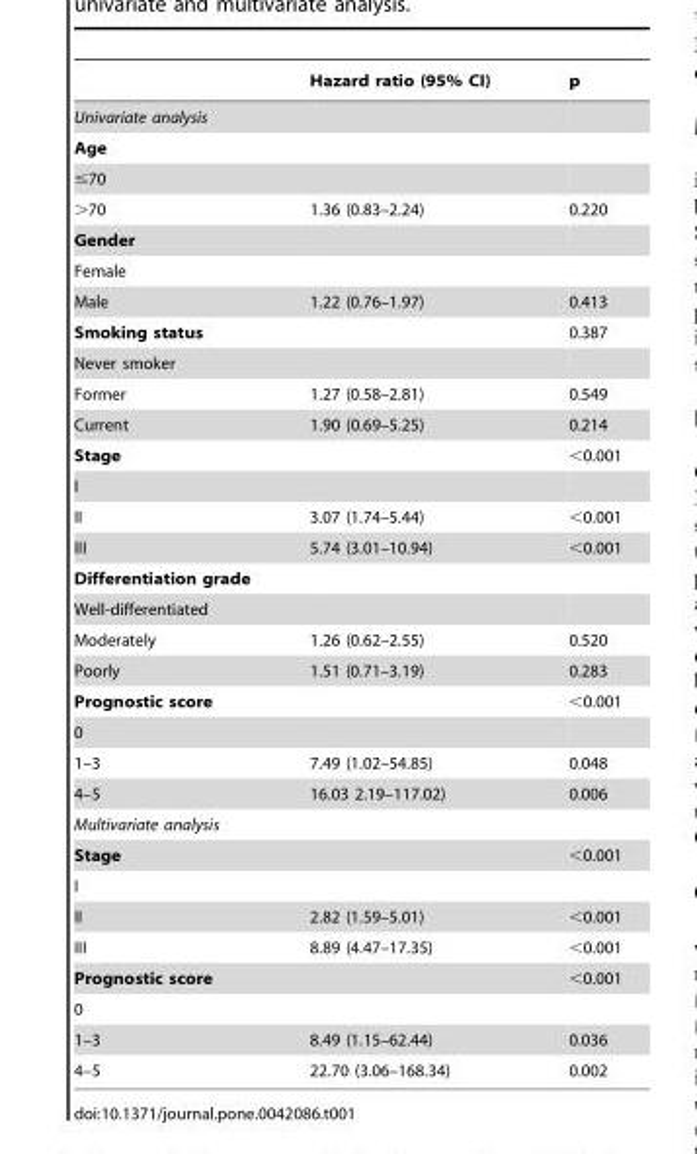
<table><thead><tr><td></td><td>Hazard ratio (95% CI)</td><td>p</td></tr></thead><tbody><tr><td colspan="3">Univariate analysis</td></tr><tr><td colspan="3">Age</td></tr><tr><td colspan="3">≤70</td></tr><tr><td>&gt;70</td><td>1.36 (0.83–2.24)</td><td>0.220</td></tr><tr><td colspan="3">Gender</td></tr><tr><td colspan="3">Female</td></tr><tr><td>Male</td><td>1.22 (0.76–1.97)</td><td>0.413</td></tr><tr><td>Smoking status</td><td></td><td>0.387</td></tr><tr><td colspan="3">Never smoker</td></tr><tr><td>Former</td><td>1.27 (0.58–2.81)</td><td>0.549</td></tr><tr><td>Current</td><td>1.90 (0.69–5.25)</td><td>0.214</td></tr><tr><td>Stage</td><td></td><td>&lt;0.001</td></tr><tr><td colspan="3">I</td></tr><tr><td>II</td><td>3.07 (1.74–5.44)</td><td>&lt;0.001</td></tr><tr><td>III</td><td>5.74 (3.01–10.94)</td><td>&lt;0.001</td></tr><tr><td colspan="3">Differentiation grade</td></tr><tr><td colspan="3">Well-differentiated</td></tr><tr><td>Moderately</td><td>1.26 (0.62–2.55)</td><td>0.520</td></tr><tr><td>Poorly</td><td>1.51 (0.71–3.19)</td><td>0.283</td></tr><tr><td>Prognostic score</td><td></td><td>&lt;0.001</td></tr><tr><td colspan="3">0</td></tr><tr><td>1–3</td><td>7.49 (1.02–54.85)</td><td>0.048</td></tr><tr><td>4–5</td><td>16.03 2.19–117.02)</td><td>0.006</td></tr><tr><td colspan="3">Multivariate analysis</td></tr><tr><td>Stage</td><td></td><td>&lt;0.001</td></tr><tr><td colspan="3">I</td></tr><tr><td>II</td><td>2.82 (1.59–5.01)</td><td>&lt;0.001</td></tr><tr><td>III</td><td>8.89 (4.47–17.35)</td><td>&lt;0.001</td></tr><tr><td>Prognostic score</td><td></td><td>&lt;0.001</td></tr><tr><td colspan="3">0</td></tr><tr><td>1–3</td><td>8.49 (1.15–62.44)</td><td>0.036</td></tr><tr><td>4–5</td><td>22.70 (3.06–168.34)</td><td>0.002</td></tr></tbody></table>